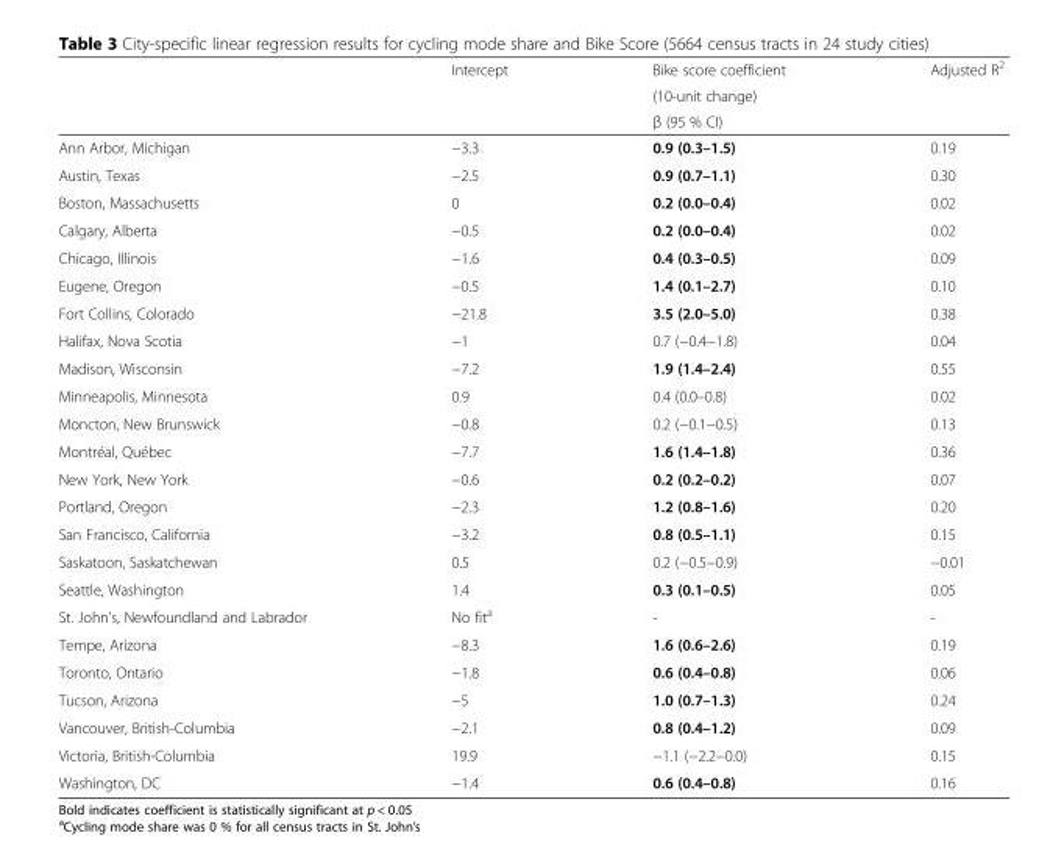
<table><thead><tr><td rowspan="3"></td><td rowspan="3">Intercept</td><td rowspan="3">Bike score coefficient (10-unit change) β (95 % CI)</td><td rowspan="3">Adjusted R<sup>2</sup></td></tr><tr></tr><tr></tr></thead><tbody><tr><td>Ann Arbor, Michigan</td><td>−3.3</td><td>0.9 (0.3–1.5)</td><td>0.19</td></tr><tr><td>Austin, Texas</td><td>−2.5</td><td>0.9 (0.7–1.1)</td><td>0.30</td></tr><tr><td>Boston, Massachusetts</td><td>0</td><td>0.2 (0.0–0.4)</td><td>0.02</td></tr><tr><td>Calgary, Alberta</td><td>−0.5</td><td>0.2 (0.0–0.4)</td><td>0.02</td></tr><tr><td>Chicago, Illinois</td><td>−1.6</td><td>0.4 (0.3–0.5)</td><td>0.09</td></tr><tr><td>Eugene, Oregon</td><td>−0.5</td><td>1.4 (0.1–2.7)</td><td>0.10</td></tr><tr><td>Fort Collins, Colorado</td><td>−21.8</td><td>3.5 (2.0–5.0)</td><td>0.38</td></tr><tr><td>Halifax, Nova Scotia</td><td>−1</td><td>0.7 (−0.4−1.8)</td><td>0.04</td></tr><tr><td>Madison, Wisconsin</td><td>−7.2</td><td>1.9 (1.4–2.4)</td><td>0.55</td></tr><tr><td>Minneapolis, Minnesota</td><td>0.9</td><td>0.4 (0.0–0.8)</td><td>0.02</td></tr><tr><td>Moncton, New Brunswick</td><td>−0.8</td><td>0.2 (−0.1−0.5)</td><td>0.13</td></tr><tr><td>Montréal, Québec</td><td>−7.7</td><td>1.6 (1.4–1.8)</td><td>0.36</td></tr><tr><td>New York, New York</td><td>−0.6</td><td>0.2 (0.2–0.2)</td><td>0.07</td></tr><tr><td>Portland, Oregon</td><td>−2.3</td><td>1.2 (0.8–1.6)</td><td>0.20</td></tr><tr><td>San Francisco, California</td><td>−3.2</td><td>0.8 (0.5–1.1)</td><td>0.15</td></tr><tr><td>Saskatoon, Saskatchewan</td><td>0.5</td><td>0.2 (−0.5−0.9)</td><td>−0.01</td></tr><tr><td>Seattle, Washington</td><td>1.4</td><td>0.3 (0.1–0.5)</td><td>0.05</td></tr><tr><td>St. John’s, Newfoundland and Labrador</td><td>No fit<sup>a</sup></td><td>-</td><td>-</td></tr><tr><td>Tempe, Arizona</td><td>−8.3</td><td>1.6 (0.6–2.6)</td><td>0.19</td></tr><tr><td>Toronto, Ontario</td><td>−1.8</td><td>0.6 (0.4–0.8)</td><td>0.06</td></tr><tr><td>Tucson, Arizona</td><td>−5</td><td>1.0 (0.7–1.3)</td><td>0.24</td></tr><tr><td>Vancouver, British-Columbia</td><td>−2.1</td><td>0.8 (0.4–1.2)</td><td>0.09</td></tr><tr><td>Victoria, British-Columbia</td><td>19.9</td><td>−1.1 (−2.2−0.0)</td><td>0.15</td></tr><tr><td>Washington, DC</td><td>−1.4</td><td>0.6 (0.4–0.8)</td><td>0.16</td></tr></tbody></table>